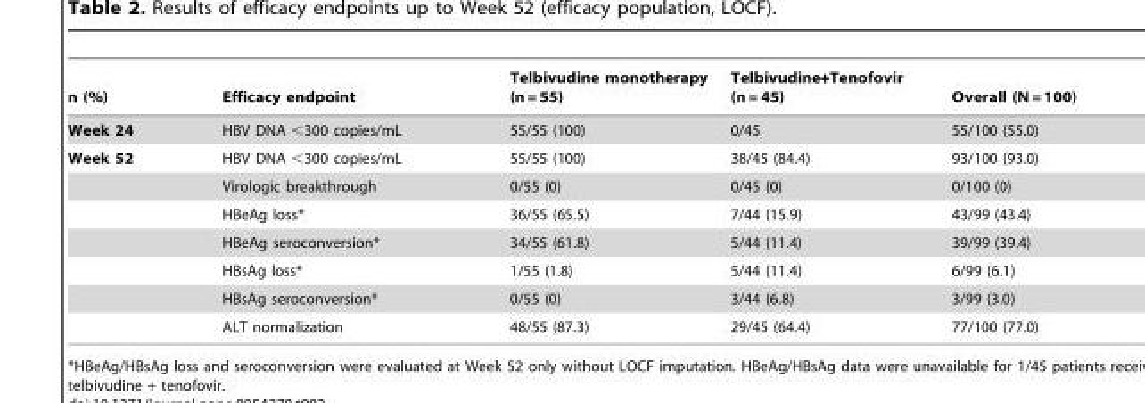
<table><thead><tr><td>n (%)</td><td>Efficacy endpoint</td><td>Telbivudine monotherapy (n = 55)</td><td>Telbivudine+Tenofovir (n = 45)</td><td>Overall (N = 100)</td></tr></thead><tbody><tr><td>Week 24</td><td>HBV DNA &lt;300 copies/mL</td><td>55/55 (100)</td><td>0/45</td><td>55/100 (55.0)</td></tr><tr><td rowspan="7">Week 52</td><td>HBV DNA &lt;300 copies/mL</td><td>55/55 (100)</td><td>38/45 (84.4)</td><td>93/100 (93.0)</td></tr><tr><td>Virologic breakthrough</td><td>0/55 (0)</td><td>0/45 (0)</td><td>0/100 (0)</td></tr><tr><td>HBeAg loss*</td><td>36/55 (65.5)</td><td>7/44 (15.9)</td><td>43/99 (43.4)</td></tr><tr><td>HBeAg seroconversion*</td><td>34/55 (61.8)</td><td>5/44 (11.4)</td><td>39/99 (39.4)</td></tr><tr><td>HBsAg loss*</td><td>1/55 (1.8)</td><td>5/44 (11.4)</td><td>6/99 (6.1)</td></tr><tr><td>HBsAg seroconversion*</td><td>0/55 (0)</td><td>3/44 (6.8)</td><td>3/99 (3.0)</td></tr><tr><td>ALT normalization</td><td>48/55 (87.3)</td><td>29/45 (64.4)</td><td>77/100 (77.0)</td></tr></tbody></table>